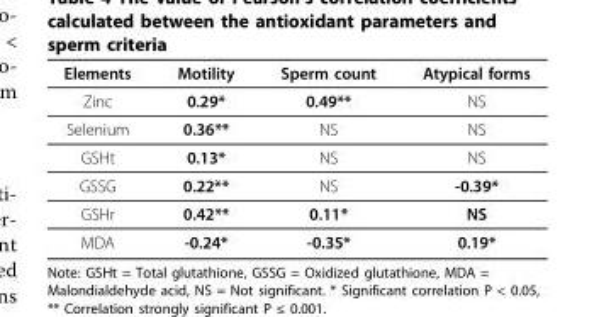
<table><thead><tr><td>Elements</td><td>Motility</td><td>Sperm count</td><td>Atypical forms</td></tr></thead><tbody><tr><td>Zinc</td><td>0.29*</td><td>0.49**</td><td>NS</td></tr><tr><td>Selenium</td><td>0.36**</td><td>NS</td><td>NS</td></tr><tr><td>GSHt</td><td>0.13*</td><td>NS</td><td>NS</td></tr><tr><td>GSSG</td><td>0.22**</td><td>NS</td><td>-0.39*</td></tr><tr><td>GSHr</td><td>0.42**</td><td>0.11*</td><td>NS</td></tr><tr><td>MDA</td><td>-0.24*</td><td>-0.35*</td><td>0.19*</td></tr></tbody></table>